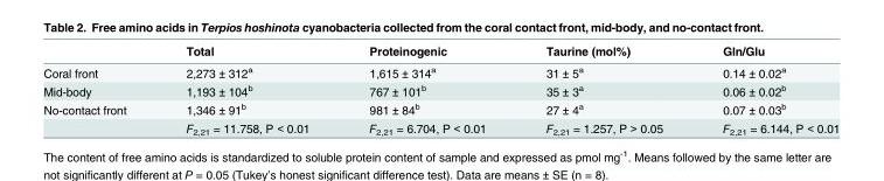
<table><thead><tr><td></td><td>Total</td><td>Proteinogenic</td><td>Taurine (mol%)</td><td>Gln/Glu</td></tr></thead><tbody><tr><td>Coral front</td><td>2,273 ± 312<sup>a</sup></td><td>1,615 ± 314<sup>a</sup></td><td>31 ± 5<sup>a</sup></td><td>0.14 ± 0.02<sup>a</sup></td></tr><tr><td>Mid-body</td><td>1,193 ± 104<sup>b</sup></td><td>767 ± 101<sup>b</sup></td><td>35 ± 3<sup>a</sup></td><td>0.06 ± 0.02<sup>b</sup></td></tr><tr><td rowspan="2">No-contact front</td><td>1,346 ± 91<sup>b</sup></td><td>981 ± 84<sup>b</sup></td><td>27 ± 4<sup>a</sup></td><td>0.07 ± 0.03<sup>b</sup></td></tr><tr><td>F<sub>2,21</sub> = 11.758, P &lt; 0.01</td><td>F<sub>2,21</sub> = 6.704, P &lt; 0.01</td><td>F<sub>2,21</sub> = 1.257, P &gt; 0.05</td><td>F<sub>2,21</sub> = 6.144, P &lt; 0.01</td></tr></tbody></table>